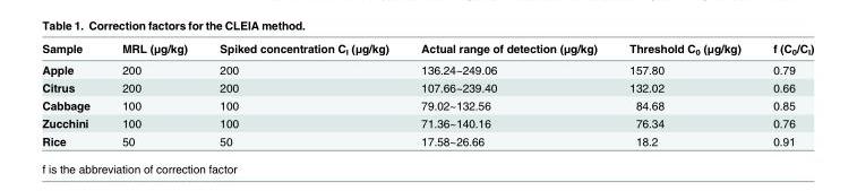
<table><thead><tr><td>Sample</td><td>MRL (μg/kg)</td><td>Spiked concentration C<sub>I</sub> (μg/kg)</td><td>Actual range of detection (μg/kg)</td><td>Threshold C<sub>0</sub> (μg/kg)</td><td>f (C<sub>0</sub>/C<sub>I</sub>)</td></tr></thead><tbody><tr><td>Apple</td><td>200</td><td>200</td><td>136.24~249.06</td><td>157.80</td><td>0.79</td></tr><tr><td>Citrus</td><td>200</td><td>200</td><td>107.66~239.40</td><td>132.02</td><td>0.66</td></tr><tr><td>Cabbage</td><td>100</td><td>100</td><td>79.02~132.56</td><td>84.68</td><td>0.85</td></tr><tr><td>Zucchini</td><td>100</td><td>100</td><td>71.36~140.16</td><td>76.34</td><td>0.76</td></tr><tr><td>Rice</td><td>50</td><td>50</td><td>17.58~26.66</td><td>18.2</td><td>0.91</td></tr></tbody></table>